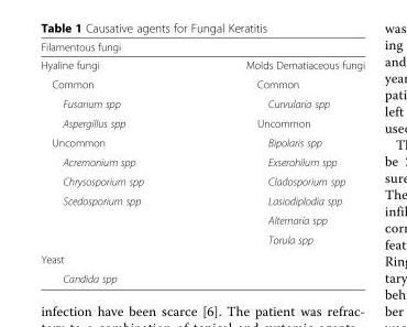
<table><thead><tr><td colspan="2">Filamentous fungi</td></tr><tr><td>Hyaline fungi</td><td>Molds Dematiaceous fungi</td></tr></thead><tbody><tr><td>Common</td><td>Common</td></tr><tr><td>Fusarium spp</td><td>Curvularia spp</td></tr><tr><td>Aspergillus spp</td><td>Uncommon</td></tr><tr><td>Uncommon</td><td>Bipolaris spp</td></tr><tr><td>Acremonium spp</td><td>Exserohilum spp</td></tr><tr><td>Chrysosporium spp</td><td>Cladosporium spp</td></tr><tr><td rowspan="3">Scedosporium spp</td><td>Lasiodiplodia spp</td></tr><tr><td>Alternaria spp</td></tr><tr><td>Torula spp</td></tr><tr><td colspan="2">Yeast</td></tr><tr><td>Candida spp</td><td></td></tr></tbody></table>